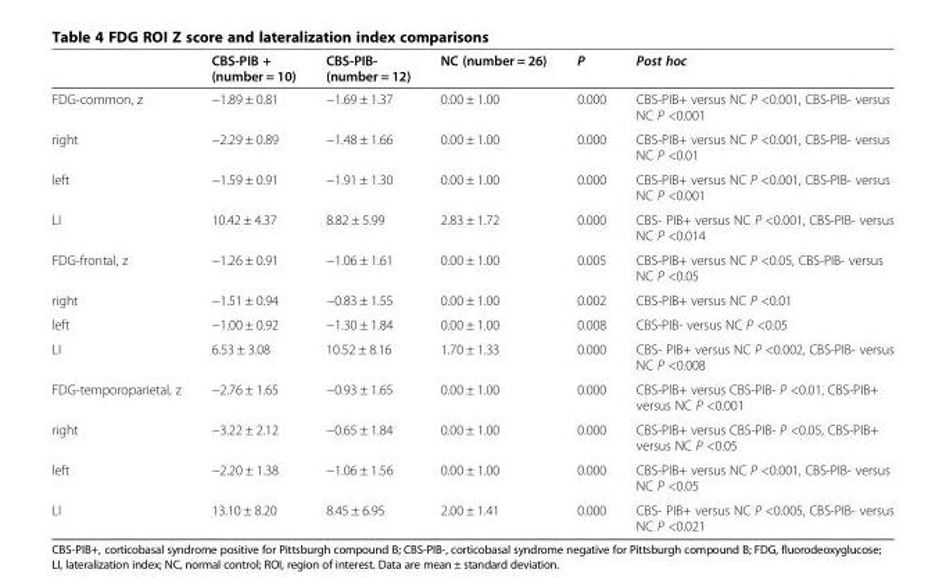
<table><thead><tr><td></td><td>CBS-PIB + (number = 10)</td><td>CBS-PIB- (number = 12)</td><td>NC (number = 26)</td><td>P</td><td>Post hoc</td></tr></thead><tbody><tr><td>FDG-common, z</td><td>−1.89 ± 0.81</td><td>−1.69 ± 1.37</td><td>0.00 ± 1.00</td><td>0.000</td><td>CBS-PIB+ versus NC P &lt;0.001, CBS-PIB- versus NC P &lt;0.001</td></tr><tr><td>right</td><td>−2.29 ± 0.89</td><td>−1.48 ± 1.66</td><td>0.00 ± 1.00</td><td>0.000</td><td>CBS-PIB+ versus NC P &lt;0.001, CBS-PIB- versus NC P &lt;0.01</td></tr><tr><td>left</td><td>−1.59 ± 0.91</td><td>−1.91 ± 1.30</td><td>0.00 ± 1.00</td><td>0.000</td><td>CBS-PIB+ versus NC P &lt;0.001, CBS-PIB- versus NC P &lt;0.001</td></tr><tr><td>LI</td><td>10.42 ± 4.37</td><td>8.82 ± 5.99</td><td>2.83 ± 1.72</td><td>0.000</td><td>CBS- PIB+ versus NC P &lt;0.001, CBS-PIB- versus NC P &lt;0.014</td></tr><tr><td>FDG-frontal, z</td><td>−1.26 ± 0.91</td><td>−1.06 ± 1.61</td><td>0.00 ± 1.00</td><td>0.005</td><td>CBS-PIB+ versus NC P &lt;0.05, CBS-PIB- versus NC P &lt;0.05</td></tr><tr><td>right</td><td>−1.51 ± 0.94</td><td>−0.83 ± 1.55</td><td>0.00 ± 1.00</td><td>0.002</td><td>CBS-PIB+ versus NC P &lt;0.01</td></tr><tr><td>left</td><td>−1.00 ± 0.92</td><td>−1.30 ± 1.84</td><td>0.00 ± 1.00</td><td>0.008</td><td>CBS-PIB- versus NC P &lt;0.05</td></tr><tr><td>LI</td><td>6.53 ± 3.08</td><td>10.52 ± 8.16</td><td>1.70 ± 1.33</td><td>0.000</td><td>CBS- PIB+ versus NC P &lt;0.002, CBS-PIB- versus NC P &lt;0.008</td></tr><tr><td>FDG-temporoparietal, z</td><td>−2.76 ± 1.65</td><td>−0.93 ± 1.65</td><td>0.00 ± 1.00</td><td>0.000</td><td>CBS-PIB+ versus CBS-PIB- P &lt;0.01, CBS-PIB+ versus NC P &lt;0.001</td></tr><tr><td>right</td><td>−3.22 ± 2.12</td><td>−0.65 ± 1.84</td><td>0.00 ± 1.00</td><td>0.000</td><td>CBS-PIB+ versus CBS-PIB- P &lt;0.05, CBS-PIB+ versus NC P &lt;0.05</td></tr><tr><td>left</td><td>−2.20 ± 1.38</td><td>−1.06 ± 1.56</td><td>0.00 ± 1.00</td><td>0.000</td><td>CBS-PIB+ versus NC P &lt;0.001, CBS-PIB- versus NC P &lt;0.05</td></tr><tr><td>LI</td><td>13.10 ± 8.20</td><td>8.45 ± 6.95</td><td>2.00 ± 1.41</td><td>0.000</td><td>CBS- PIB+ versus NC P &lt;0.005, CBS-PIB- versus NC P &lt;0.021</td></tr></tbody></table>